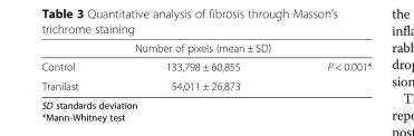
<table><thead><tr><td></td><td>Number of pixels (mean ± SD)</td><td></td></tr></thead><tbody><tr><td>Control</td><td>133,798 ± 60,855</td><td rowspan="2">P &lt; 0.001*</td></tr><tr><td>Tranilast</td><td>54,011 ± 26,873</td></tr></tbody></table>